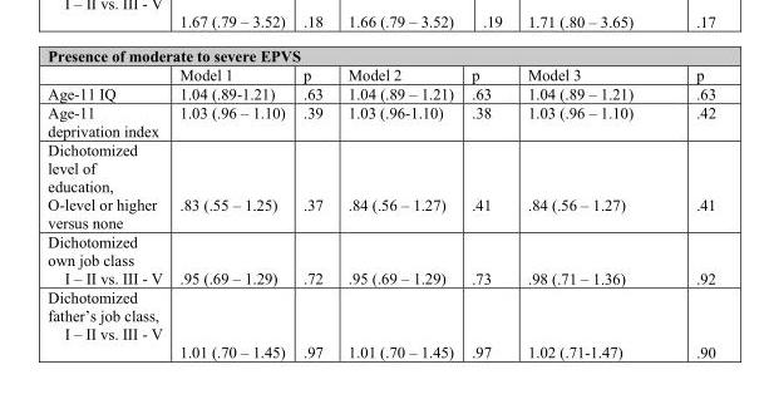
<table><thead><tr><td colspan="7">Presence of moderate to severe EPVS</td></tr><tr><td></td><td>Model 1</td><td>p</td><td>Model 2</td><td>p</td><td>Model 3</td><td>p</td></tr></thead><tbody><tr><td>Age-11 IQ</td><td>1.04 (.89-1.21)</td><td>.63</td><td>1.04 (.89 – 1.21)</td><td>.63</td><td>1.04 (.89 – 1.21)</td><td>.63</td></tr><tr><td>Age-11 deprivation index</td><td>1.03 (.96 – 1.10)</td><td>.39</td><td>1.03 (.96-1.10)</td><td>.38</td><td>1.03 (.96 – 1.10)</td><td>.42</td></tr><tr><td>Dichotomized level of education, O-level or higher versus none</td><td>.83 (.55 – 1.25)</td><td>.37</td><td>.84 (.56 – 1.27)</td><td>.41</td><td>.84 (.56 – 1.27)</td><td>.41</td></tr><tr><td>Dichotomized own job class I – II vs. III - V</td><td>.95 (.69 – 1.29)</td><td>.72</td><td>.95 (.69 – 1.29)</td><td>.73</td><td>.98 (.71 – 1.36)</td><td>.92</td></tr><tr><td>Dichotomized father’s job class, I – II vs. III - V</td><td>1.01 (.70 – 1.45)</td><td>.97</td><td>1.01 (.70 – 1.45)</td><td>.97</td><td>1.02 (.71-1.47)</td><td>.90</td></tr></tbody></table>